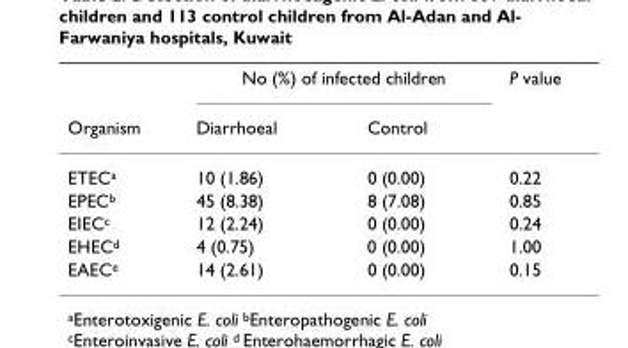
<table><thead><tr><td rowspan="2">Organism</td><td colspan="2">No (%) of infected children</td><td rowspan="2">P value</td></tr><tr><td>Diarrhoeal</td><td>Control</td></tr></thead><tbody><tr><td>ETEC<sup>a</sup></td><td>10 (1.86)</td><td>0 (0.00)</td><td>0.22</td></tr><tr><td>EPEC<sup>b</sup></td><td>45 (8.38)</td><td>8 (7.08)</td><td>0.85</td></tr><tr><td>EIEC<sup>c</sup></td><td>12 (2.24)</td><td>0 (0.00)</td><td>0.24</td></tr><tr><td>EHEC<sup>d</sup></td><td>4 (0.75)</td><td>0 (0.00)</td><td>1.00</td></tr><tr><td>EAEC<sup>e</sup></td><td>14 (2.61)</td><td>0 (0.00)</td><td>0.15</td></tr></tbody></table>